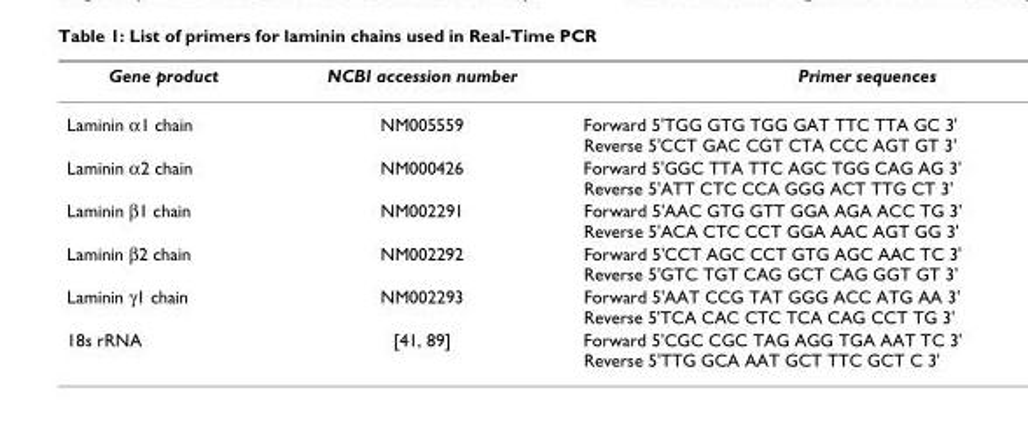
<table><thead><tr><td>Gene product</td><td>NCBI accession number</td><td>Primer sequences</td></tr></thead><tbody><tr><td>Laminin α1 chain</td><td>NM005559</td><td>Forward 5&#x27;TGG GTG TGG GAT TTC TTA GC 3&#x27; Reverse 5&#x27;CCT GAC CGT CTA CCC AGT GT 3&#x27;</td></tr><tr><td>Laminin α2 chain</td><td>NM000426</td><td>Forward 5&#x27;GGC TTA TTC AGC TGG CAG AG 3&#x27; Reverse 5&#x27;ATT CTC CCA GGG ACT TTG CT 3&#x27;</td></tr><tr><td>Laminin β1 chain</td><td>NM002291</td><td>Forward 5&#x27;AAC GTG GTT GGA AGA ACC TG 3&#x27; Reverse 5&#x27;ACA CTC CCT GGA AAC AGT GG 3&#x27;</td></tr><tr><td>Laminin β2 chain</td><td>NM002292</td><td>Forward 5&#x27;CCT AGC CCT GTG AGC AAC TC 3&#x27; Reverse 5&#x27;GTC TGT CAG GCT CAG GGT GT 3&#x27;</td></tr><tr><td>Laminin γ1 chain</td><td>NM002293</td><td>Forward 5&#x27;AAT CCG TAT GGG ACC ATG AA 3&#x27; Reverse 5&#x27;TCA CAC CTC TCA CAG CCT TG 3&#x27;</td></tr><tr><td>18s rRNA</td><td>[41, 89]</td><td>Forward 5&#x27;CGC CGC TAG AGG TGA AAT TC 3&#x27; Reverse 5&#x27;TTG GCA AAT GCT TTC GCT C 3&#x27;</td></tr></tbody></table>